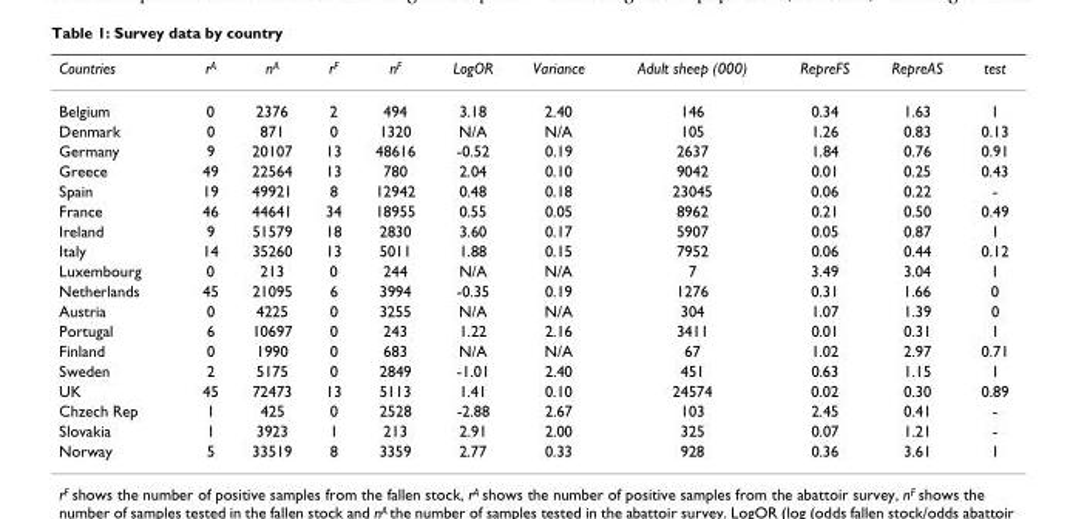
<table><thead><tr><td>Countries</td><td>r<sup>A</sup></td><td>n<sup>A</sup></td><td>r<sup>F</sup></td><td>n<sup>F</sup></td><td>LogOR</td><td>Variance</td><td>Adult sheep (000)</td><td>RepreFS</td><td>RepreAS</td><td>test</td></tr></thead><tbody><tr><td>Belgium</td><td>0</td><td>2376</td><td>2</td><td>494</td><td>3.18</td><td>2.40</td><td>146</td><td>0.34</td><td>1.63</td><td>1</td></tr><tr><td>Denmark</td><td>0</td><td>871</td><td>0</td><td>1320</td><td>N/A</td><td>N/A</td><td>105</td><td>1.26</td><td>0.83</td><td>0.13</td></tr><tr><td>Germany</td><td>9</td><td>20107</td><td>13</td><td>48616</td><td>-0.52</td><td>0.19</td><td>2637</td><td>1.84</td><td>0.76</td><td>0.91</td></tr><tr><td>Greece</td><td>49</td><td>22564</td><td>13</td><td>780</td><td>2.04</td><td>0.10</td><td>9042</td><td>0.01</td><td>0.25</td><td>0.43</td></tr><tr><td>Spain</td><td>19</td><td>49921</td><td>8</td><td>12942</td><td>0.48</td><td>0.18</td><td>23045</td><td>0.06</td><td>0.22</td><td>-</td></tr><tr><td>France</td><td>46</td><td>44641</td><td>34</td><td>18955</td><td>0.55</td><td>0.05</td><td>8962</td><td>0.21</td><td>0.50</td><td>0.49</td></tr><tr><td>Ireland</td><td>9</td><td>51579</td><td>18</td><td>2830</td><td>3.60</td><td>0.17</td><td>5907</td><td>0.05</td><td>0.87</td><td>1</td></tr><tr><td>Italy</td><td>14</td><td>35260</td><td>13</td><td>5011</td><td>1.88</td><td>0.15</td><td>7952</td><td>0.06</td><td>0.44</td><td>0.12</td></tr><tr><td>Luxembourg</td><td>0</td><td>213</td><td>0</td><td>244</td><td>N/A</td><td>N/A</td><td>7</td><td>3.49</td><td>3.04</td><td>1</td></tr><tr><td>Netherlands</td><td>45</td><td>21095</td><td>6</td><td>3994</td><td>-0.35</td><td>0.19</td><td>1276</td><td>0.31</td><td>1.66</td><td>0</td></tr><tr><td>Austria</td><td>0</td><td>4225</td><td>0</td><td>3255</td><td>N/A</td><td>N/A</td><td>304</td><td>1.07</td><td>1.39</td><td>0</td></tr><tr><td>Portugal</td><td>6</td><td>10697</td><td>0</td><td>243</td><td>1.22</td><td>2.16</td><td>3411</td><td>0.01</td><td>0.31</td><td>1</td></tr><tr><td>Finland</td><td>0</td><td>1990</td><td>0</td><td>683</td><td>N/A</td><td>N/A</td><td>67</td><td>1.02</td><td>2.97</td><td>0.71</td></tr><tr><td>Sweden</td><td>2</td><td>5175</td><td>0</td><td>2849</td><td>-1.01</td><td>2.40</td><td>451</td><td>0.63</td><td>1.15</td><td>1</td></tr><tr><td>UK</td><td>45</td><td>72473</td><td>13</td><td>5113</td><td>1.41</td><td>0.10</td><td>24574</td><td>0.02</td><td>0.30</td><td>0.89</td></tr><tr><td>Chzech Rep</td><td>1</td><td>425</td><td>0</td><td>2528</td><td>-2.88</td><td>2.67</td><td>103</td><td>2.45</td><td>0.41</td><td>-</td></tr><tr><td>Slovakia</td><td>1</td><td>3923</td><td>1</td><td>213</td><td>2.91</td><td>2.00</td><td>325</td><td>0.07</td><td>1.21</td><td>-</td></tr><tr><td>Norway</td><td>5</td><td>33519</td><td>8</td><td>3359</td><td>2.77</td><td>0.33</td><td>928</td><td>0.36</td><td>3.61</td><td>1</td></tr></tbody></table>